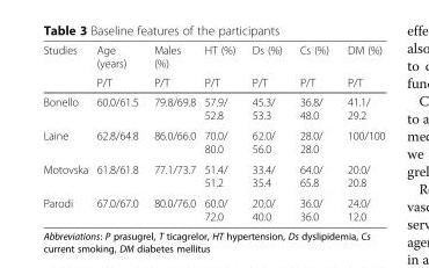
<table><thead><tr><td rowspan="2">Studies</td><td rowspan="2">Age (years) P/T</td><td rowspan="2">Males (%) P/T</td><td rowspan="2">HT (%) P/T</td><td rowspan="2">Ds (%) P/T</td><td rowspan="2">Cs (%) P/T</td><td rowspan="2">DM (%) P/T</td></tr><tr></tr></thead><tbody><tr><td>Bonello</td><td>60.0/61.5</td><td>79.8/69.8</td><td>57.9/ 52.8</td><td>45.3/ 53.3</td><td>36.8/ 48.0</td><td>41.1/ 29.2</td></tr><tr><td>Laine</td><td>62.8/64.8</td><td>86.0/66.0</td><td>70.0/ 80.0</td><td>62.0/ 56.0</td><td>28.0/ 28.0</td><td>100/100</td></tr><tr><td>Motovska</td><td>61.8/61.8</td><td>77.1/73.7</td><td>51.4/ 51.2</td><td>33.4/ 35.4</td><td>64.0/ 65.8</td><td>20.0/ 20.8</td></tr><tr><td>Parodi</td><td>67.0/67.0</td><td>80.0/76.0</td><td>60.0/ 72.0</td><td>20.0/ 40.0</td><td>36.0/ 36.0</td><td>24.0/ 12.0</td></tr></tbody></table>